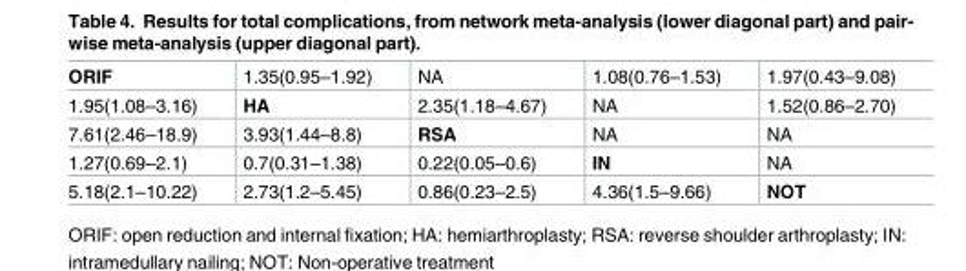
<table><tbody><tr><td>ORIF</td><td>1.35(0.95–1.92)</td><td>NA</td><td>1.08(0.76–1.53)</td><td>1.97(0.43–9.08)</td></tr><tr><td>1.95(1.08–3.16)</td><td>HA</td><td>2.35(1.18–4.67)</td><td>NA</td><td>1.52(0.86–2.70)</td></tr><tr><td>7.61(2.46–18.9)</td><td>3.93(1.44–8.8)</td><td>RSA</td><td>NA</td><td>NA</td></tr><tr><td>1.27(0.69–2.1)</td><td>0.7(0.31–1.38)</td><td>0.22(0.05–0.6)</td><td>IN</td><td>NA</td></tr><tr><td>5.18(2.1–10.22)</td><td>2.73(1.2–5.45)</td><td>0.86(0.23–2.5)</td><td>4.36(1.5–9.66)</td><td>NOT</td></tr></tbody></table>